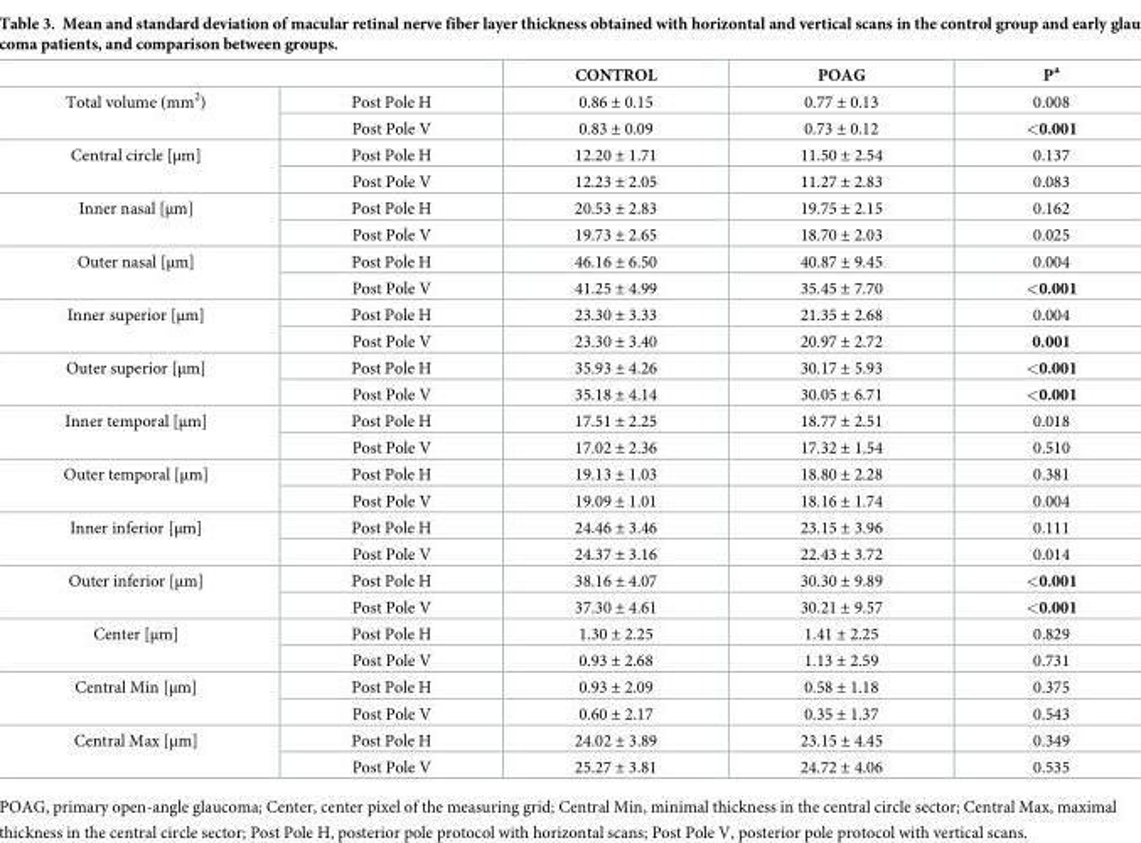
<table><thead><tr><td></td><td></td><td>CONTROL</td><td>POAG</td><td>P<sup>a</sup></td></tr></thead><tbody><tr><td rowspan="2">Total volume (mm<sup>2</sup>)</td><td>Post Pole H</td><td>0.86 ± 0.15</td><td>0.77 ± 0.13</td><td>0.008</td></tr><tr><td>Post Pole V</td><td>0.83 ± 0.09</td><td>0.73 ± 0.12</td><td>&lt;0.001</td></tr><tr><td rowspan="2">Central circle [μm]</td><td>Post Pole H</td><td>12.20 ± 1.71</td><td>11.50 ± 2.54</td><td>0.137</td></tr><tr><td>Post Pole V</td><td>12.23 ± 2.05</td><td>11.27 ± 2.83</td><td>0.083</td></tr><tr><td rowspan="2">Inner nasal [μm]</td><td>Post Pole H</td><td>20.53 ± 2.83</td><td>19.75 ± 2.15</td><td>0.162</td></tr><tr><td>Post Pole V</td><td>19.73 ± 2.65</td><td>18.70 ± 2.03</td><td>0.025</td></tr><tr><td rowspan="2">Outer nasal [μm]</td><td>Post Pole H</td><td>46.16 ± 6.50</td><td>40.87 ± 9.45</td><td>0.004</td></tr><tr><td>Post Pole V</td><td>41.25 ± 4.99</td><td>35.45 ± 7.70</td><td>&lt;0.001</td></tr><tr><td rowspan="2">Inner superior [μm]</td><td>Post Pole H</td><td>23.30 ± 3.33</td><td>21.35 ± 2.68</td><td>0.004</td></tr><tr><td>Post Pole V</td><td>23.30 ± 3.40</td><td>20.97 ± 2.72</td><td>0.001</td></tr><tr><td rowspan="2">Outer superior [μm]</td><td>Post Pole H</td><td>35.93 ± 4.26</td><td>30.17 ± 5.93</td><td>&lt;0.001</td></tr><tr><td>Post Pole V</td><td>35.18 ± 4.14</td><td>30.05 ± 6.71</td><td>&lt;0.001</td></tr><tr><td rowspan="2">Inner temporal [μm]</td><td>Post Pole H</td><td>17.51 ± 2.25</td><td>18.77 ± 2.51</td><td>0.018</td></tr><tr><td>Post Pole V</td><td>17.02 ± 2.36</td><td>17.32 ± 1.54</td><td>0.510</td></tr><tr><td rowspan="2">Outer temporal [μm]</td><td>Post Pole H</td><td>19.13 ± 1.03</td><td>18.80 ± 2.28</td><td>0.381</td></tr><tr><td>Post Pole V</td><td>19.09 ± 1.01</td><td>18.16 ± 1.74</td><td>0.004</td></tr><tr><td rowspan="2">Inner inferior [μm]</td><td>Post Pole H</td><td>24.46 ± 3.46</td><td>23.15 ± 3.96</td><td>0.111</td></tr><tr><td>Post Pole V</td><td>24.37 ± 3.16</td><td>22.43 ± 3.72</td><td>0.014</td></tr><tr><td rowspan="2">Outer inferior [μm]</td><td>Post Pole H</td><td>38.16 ± 4.07</td><td>30.30 ± 9.89</td><td>&lt;0.001</td></tr><tr><td>Post Pole V</td><td>37.30 ± 4.61</td><td>30.21 ± 9.57</td><td>&lt;0.001</td></tr><tr><td rowspan="2">Center [μm]</td><td>Post Pole H</td><td>1.30 ± 2.25</td><td>1.41 ± 2.25</td><td>0.829</td></tr><tr><td>Post Pole V</td><td>0.93 ± 2.68</td><td>1.13 ± 2.59</td><td>0.731</td></tr><tr><td rowspan="2">Central Min [μm]</td><td>Post Pole H</td><td>0.93 ± 2.09</td><td>0.58 ± 1.18</td><td>0.375</td></tr><tr><td>Post Pole V</td><td>0.60 ± 2.17</td><td>0.35 ± 1.37</td><td>0.543</td></tr><tr><td rowspan="2">Central Max [μm]</td><td>Post Pole H</td><td>24.02 ± 3.89</td><td>23.15 ± 4.45</td><td>0.349</td></tr><tr><td>Post Pole V</td><td>25.27 ± 3.81</td><td>24.72 ± 4.06</td><td>0.535</td></tr></tbody></table>